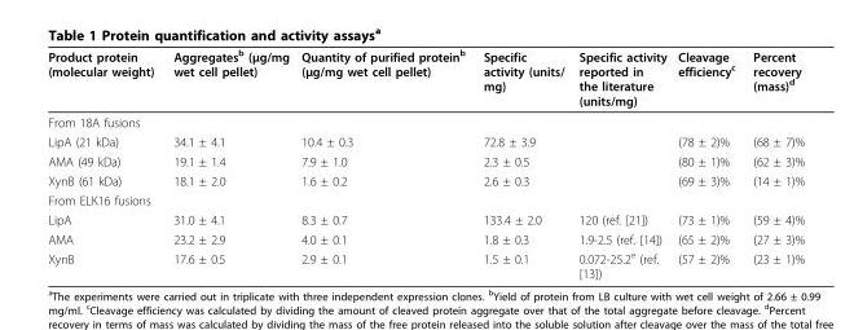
<table><thead><tr><td>Product protein (molecular weight)</td><td>Aggregates<sup>b</sup> (μg/mg wet cell pellet)</td><td>Quantity of purified protein<sup>b</sup> (μg/mg wet cell pellet)</td><td>Specific activity (units/ mg)</td><td>Specific activity reported in the literature (units/mg)</td><td>Cleavage efficiency<sup>c</sup></td><td>Percent recovery (mass)<sup>d</sup></td></tr></thead><tbody><tr><td colspan="7">From 18A fusions</td></tr><tr><td>LipA (21 kDa)</td><td>34.1 ± 4.1</td><td>10.4 ± 0.3</td><td>72.8 ± 3.9</td><td></td><td>(78 ± 2)%</td><td>(68 ± 7)%</td></tr><tr><td>AMA (49 kDa)</td><td>19.1 ± 1.4</td><td>7.9 ± 1.0</td><td>2.3 ± 0.5</td><td></td><td>(80 ± 1)%</td><td>(62 ± 3)%</td></tr><tr><td>XynB (61 kDa)</td><td>18.1 ± 2.0</td><td>1.6 ± 0.2</td><td>2.6 ± 0.3</td><td></td><td>(69 ± 3)%</td><td>(14 ± 1)%</td></tr><tr><td colspan="7">From ELK16 fusions</td></tr><tr><td>LipA</td><td>31.0 ± 4.1</td><td>8.3 ± 0.7</td><td>133.4 ± 2.0</td><td>120 (ref. [21])</td><td>(73 ± 1)%</td><td>(59 ± 4)%</td></tr><tr><td>AMA</td><td>23.2 ± 2.9</td><td>4.0 ± 0.1</td><td>1.8 ± 0.3</td><td>1.9-2.5 (ref. [14])</td><td>(65 ± 2)%</td><td>(27 ± 3)%</td></tr><tr><td>XynB</td><td>17.6 ± 0.5</td><td>2.9 ± 0.1</td><td>1.5 ± 0.1</td><td>0.072-25.2<sup>e</sup> (ref. [13])</td><td>(57 ± 2)%</td><td>(23 ± 1)%</td></tr></tbody></table>